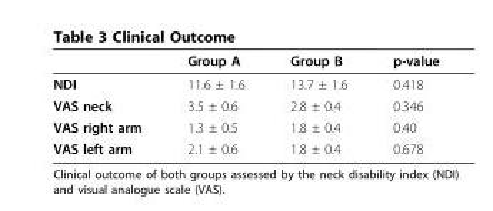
<table><thead><tr><td></td><td>Group A</td><td>Group B</td><td>p-value</td></tr></thead><tbody><tr><td>NDI</td><td>11.6 ± 1.6</td><td>13.7 ± 1.6</td><td>0.418</td></tr><tr><td>VAS neck</td><td>3.5 ± 0.6</td><td>2.8 ± 0.4</td><td>0.346</td></tr><tr><td>VAS right arm</td><td>1.3 ± 0.5</td><td>1.8 ± 0.4</td><td>0.40</td></tr><tr><td>VAS left arm</td><td>2.1 ± 0.6</td><td>1.8 ± 0.4</td><td>0.678</td></tr></tbody></table>